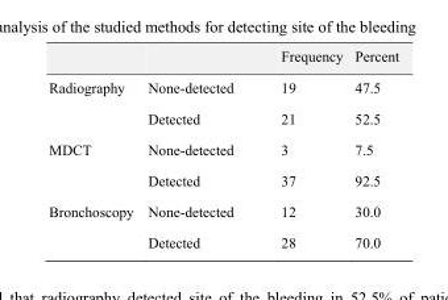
<table><thead><tr><td></td><td></td><td>Frequency</td><td>Percent</td></tr></thead><tbody><tr><td rowspan="2">Radiography</td><td>None-detected</td><td>19</td><td>47.5</td></tr><tr><td>Detected</td><td>21</td><td>52.5</td></tr><tr><td rowspan="2">MDCT</td><td>None-detected</td><td>3</td><td>7.5</td></tr><tr><td>Detected</td><td>37</td><td>92.5</td></tr><tr><td rowspan="2">Bronchoscopy</td><td>None-detected</td><td>12</td><td>30.0</td></tr><tr><td>Detected</td><td>28</td><td>70.0</td></tr></tbody></table>